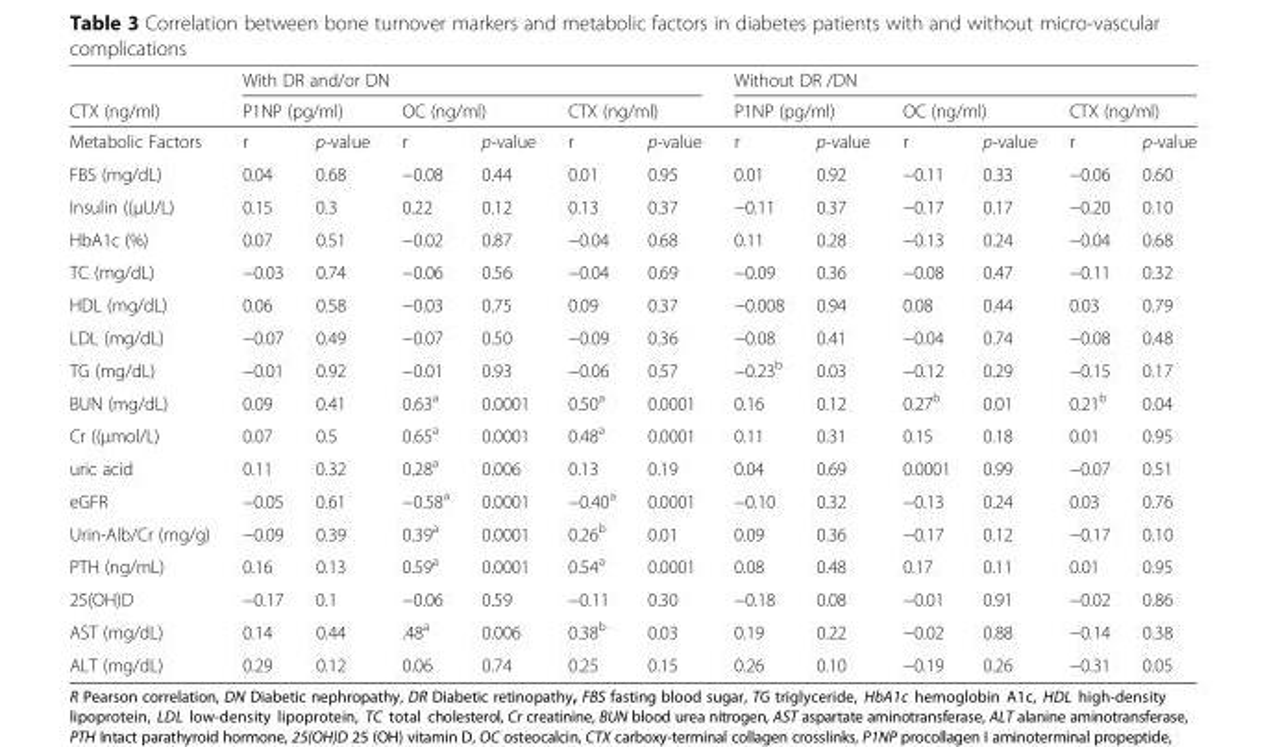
<table><thead><tr><td rowspan="3">CTX (ng/ml) Metabolic Factors</td><td colspan="6">With DR and/or DN</td><td colspan="6">Without DR /DN</td></tr><tr><td colspan="2">P1NP (pg/ml)</td><td colspan="2">OC (ng/ml)</td><td colspan="2">CTX (ng/ml)</td><td colspan="2">P1NP (pg/ml)</td><td colspan="2">OC (ng/ml)</td><td colspan="2">CTX (ng/ml)</td></tr><tr><td>r</td><td>p-value</td><td>r</td><td>p-value</td><td>r</td><td>p-value</td><td>r</td><td>p-value</td><td>r</td><td>p-value</td><td>r</td><td>p-value</td></tr></thead><tbody><tr><td>FBS (mg/dL)</td><td>0.04</td><td>0.68</td><td>−0.08</td><td>0.44</td><td>0.01</td><td>0.95</td><td>0.01</td><td>0.92</td><td>−0.11</td><td>0.33</td><td>−0.06</td><td>0.60</td></tr><tr><td>Insulin ((μU/L)</td><td>0.15</td><td>0.3</td><td>0.22</td><td>0.12</td><td>0.13</td><td>0.37</td><td>−0.11</td><td>0.37</td><td>−0.17</td><td>0.17</td><td>−0.20</td><td>0.10</td></tr><tr><td>HbA1c (%)</td><td>0.07</td><td>0.51</td><td>−0.02</td><td>0.87</td><td>−0.04</td><td>0.68</td><td>0.11</td><td>0.28</td><td>−0.13</td><td>0.24</td><td>−0.04</td><td>0.68</td></tr><tr><td>TC (mg/dL)</td><td>−0.03</td><td>0.74</td><td>−0.06</td><td>0.56</td><td>−0.04</td><td>0.69</td><td>−0.09</td><td>0.36</td><td>−0.08</td><td>0.47</td><td>−0.11</td><td>0.32</td></tr><tr><td>HDL (mg/dL)</td><td>0.06</td><td>0.58</td><td>−0.03</td><td>0.75</td><td>0.09</td><td>0.37</td><td>−0.008</td><td>0.94</td><td>0.08</td><td>0.44</td><td>0.03</td><td>0.79</td></tr><tr><td>LDL (mg/dL)</td><td>−0.07</td><td>0.49</td><td>−0.07</td><td>0.50</td><td>−0.09</td><td>0.36</td><td>−0.08</td><td>0.41</td><td>−0.04</td><td>0.74</td><td>−0.08</td><td>0.48</td></tr><tr><td>TG (mg/dL)</td><td>−0.01</td><td>0.92</td><td>−0.01</td><td>0.93</td><td>−0.06</td><td>0.57</td><td>−0.23<sup>b</sup></td><td>0.03</td><td>−0.12</td><td>0.29</td><td>−0.15</td><td>0.17</td></tr><tr><td>BUN (mg/dL)</td><td>0.09</td><td>0.41</td><td>0.63<sup>a</sup></td><td>0.0001</td><td>0.50<sup>a</sup></td><td>0.0001</td><td>0.16</td><td>0.12</td><td>0.27<sup>b</sup></td><td>0.01</td><td>0.21<sup>b</sup></td><td>0.04</td></tr><tr><td>Cr ((μmol/L)</td><td>0.07</td><td>0.5</td><td>0.65<sup>a</sup></td><td>0.0001</td><td>0.48<sup>a</sup></td><td>0.0001</td><td>0.11</td><td>0.31</td><td>0.15</td><td>0.18</td><td>0.01</td><td>0.95</td></tr><tr><td>uric acid</td><td>0.11</td><td>0.32</td><td>0.28<sup>a</sup></td><td>0.006</td><td>0.13</td><td>0.19</td><td>0.04</td><td>0.69</td><td>0.0001</td><td>0.99</td><td>−0.07</td><td>0.51</td></tr><tr><td>eGFR</td><td>−0.05</td><td>0.61</td><td>−0.58<sup>a</sup></td><td>0.0001</td><td>−0.40<sup>a</sup></td><td>0.0001</td><td>−0.10</td><td>0.32</td><td>−0.13</td><td>0.24</td><td>0.03</td><td>0.76</td></tr><tr><td>Urin-Alb/Cr (mg/g)</td><td>−0.09</td><td>0.39</td><td>0.39<sup>a</sup></td><td>0.0001</td><td>0.26<sup>b</sup></td><td>0.01</td><td>0.09</td><td>0.36</td><td>−0.17</td><td>0.12</td><td>−0.17</td><td>0.10</td></tr><tr><td>PTH (ng/mL)</td><td>0.16</td><td>0.13</td><td>0.59<sup>a</sup></td><td>0.0001</td><td>0.54<sup>a</sup></td><td>0.0001</td><td>0.08</td><td>0.48</td><td>0.17</td><td>0.11</td><td>0.01</td><td>0.95</td></tr><tr><td>25(OH)D</td><td>−0.17</td><td>0.1</td><td>−0.06</td><td>0.59</td><td>−0.11</td><td>0.30</td><td>−0.18</td><td>0.08</td><td>−0.01</td><td>0.91</td><td>−0.02</td><td>0.86</td></tr><tr><td>AST (mg/dL)</td><td>0.14</td><td>0.44</td><td>.48<sup>a</sup></td><td>0.006</td><td>0.38<sup>b</sup></td><td>0.03</td><td>0.19</td><td>0.22</td><td>−0.02</td><td>0.88</td><td>−0.14</td><td>0.38</td></tr><tr><td>ALT (mg/dL)</td><td>0.29</td><td>0.12</td><td>0.06</td><td>0.74</td><td>0.25</td><td>0.15</td><td>0.26</td><td>0.10</td><td>−0.19</td><td>0.26</td><td>−0.31</td><td>0.05</td></tr></tbody></table>